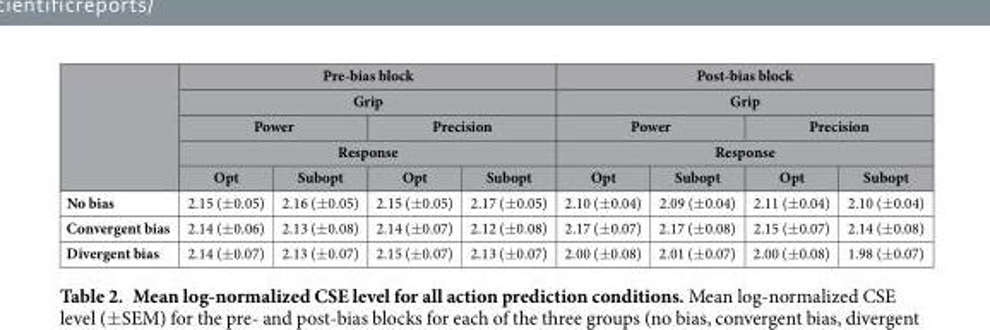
<table><thead><tr><td rowspan="5"></td><td rowspan="2" colspan="4">Pre-bias block Grip</td><td rowspan="2" colspan="4">Post-bias block Grip</td></tr><tr></tr><tr><td colspan="2">Power</td><td colspan="2">Precision</td><td colspan="2">Power</td><td colspan="2">Precision</td></tr><tr><td colspan="4">Response</td><td colspan="4">Response</td></tr><tr><td>Opt</td><td>Subopt</td><td>Opt</td><td>Subopt</td><td>Opt</td><td>Subopt</td><td>Opt</td><td>Subopt</td></tr></thead><tbody><tr><td>No bias</td><td>2.15 (± 0.05)</td><td>2.16 (± 0.05)</td><td>2.15 (± 0.05)</td><td>2.17 (± 0.05)</td><td>2.10 (± 0.04)</td><td>2.09 (± 0.04)</td><td>2.11 (± 0.04)</td><td>2.10 (± 0.04)</td></tr><tr><td>Convergent bias</td><td>2.14 (± 0.06)</td><td>2.13 (± 0.08)</td><td>2.14 (± 0.07)</td><td>2.12 (± 0.08)</td><td>2.17 (± 0.07)</td><td>2.17 (± 0.08)</td><td>2.15 (± 0.07)</td><td>2.14 (± 0.08)</td></tr><tr><td>Divergent bias</td><td>2.14 (± 0.07)</td><td>2.13 (± 0.07)</td><td>2.15 (± 0.07)</td><td>2.13 (± 0.07)</td><td>2.00 (± 0.08)</td><td>2.01 (± 0.07)</td><td>2.00 (± 0.08)</td><td>1.98 (± 0.07)</td></tr></tbody></table>